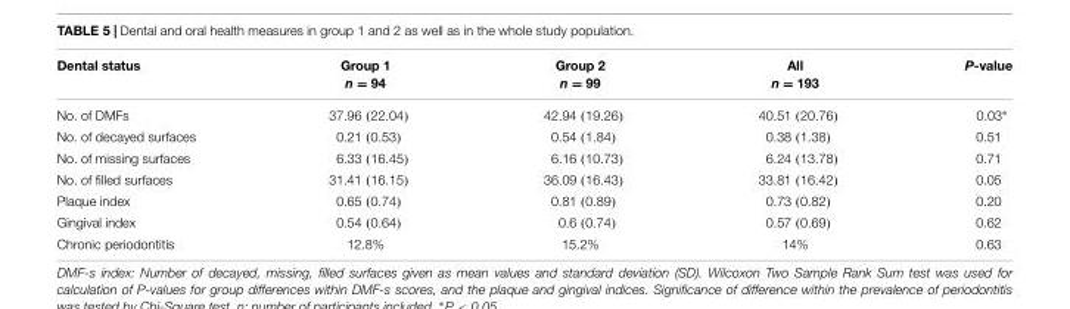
<table><thead><tr><td>Dental status</td><td>Group 1 n = 94</td><td>Group 2 n = 99</td><td>All n = 193</td><td>P-value</td></tr></thead><tbody><tr><td>No. of DMFs</td><td>37.96 (22.04)</td><td>42.94 (19.26)</td><td>40.51 (20.76)</td><td>0.03∗</td></tr><tr><td>No. of decayed surfaces</td><td>0.21 (0.53)</td><td>0.54 (1.84)</td><td>0.38 (1.38)</td><td>0.51</td></tr><tr><td>No. of missing surfaces</td><td>6.33 (16.45)</td><td>6.16 (10.73)</td><td>6.24 (13.78)</td><td>0.71</td></tr><tr><td>No. of filled surfaces</td><td>31.41 (16.15)</td><td>36.09 (16.43)</td><td>33.81 (16.42)</td><td>0.05</td></tr><tr><td>Plaque index</td><td>0.65 (0.74)</td><td>0.81 (0.89)</td><td>0.73 (0.82)</td><td>0.20</td></tr><tr><td>Gingival index</td><td>0.54 (0.64)</td><td>0.6 (0.74)</td><td>0.57 (0.69)</td><td>0.62</td></tr><tr><td>Chronic periodontitis</td><td>12.8%</td><td>15.2%</td><td>14%</td><td>0.63</td></tr></tbody></table>